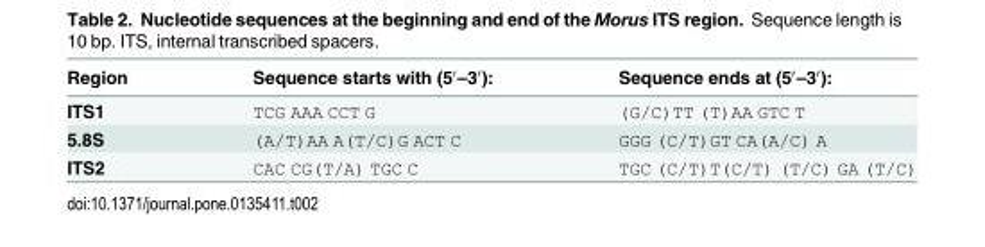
<table><thead><tr><td>Region</td><td>Sequence starts with (5′–3′):</td><td>Sequence ends at (5′–3′):</td></tr></thead><tbody><tr><td>ITS1</td><td>TCG AAA CCT G</td><td>(G/C)TT (T)AA GTC T</td></tr><tr><td>5.8S</td><td>(A/T)AA A(T/C)G ACT C</td><td>GGG (C/T)GT CA(A/C) A</td></tr><tr><td>ITS2</td><td>CAC CG(T/A) TGC C</td><td>TGC (C/T)T(C/T) (T/C) GA (T/C)</td></tr></tbody></table>